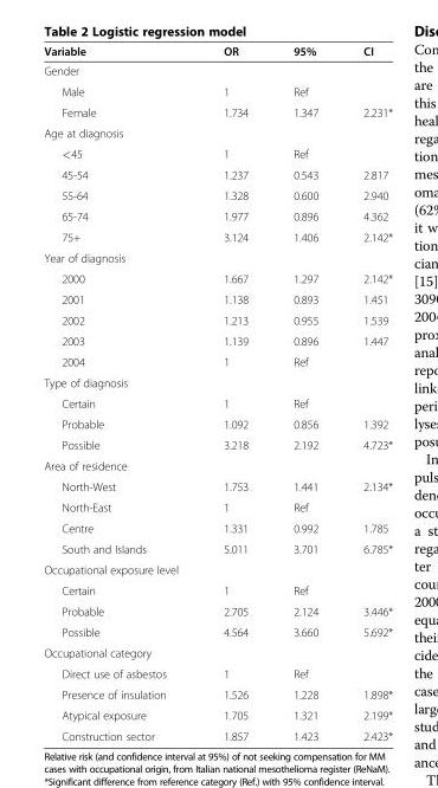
<table><thead><tr><td>Variable</td><td>OR</td><td>95%</td><td>CI</td></tr></thead><tbody><tr><td colspan="4">Gender</td></tr><tr><td>Male</td><td>1</td><td>Ref</td><td></td></tr><tr><td>Female</td><td>1.734</td><td>1.347</td><td>2.231*</td></tr><tr><td colspan="4">Age at diagnosis</td></tr><tr><td>&lt;45</td><td>1</td><td>Ref</td><td></td></tr><tr><td>45-54</td><td>1.237</td><td>0.543</td><td>2.817</td></tr><tr><td>55-64</td><td>1.328</td><td>0.600</td><td>2.940</td></tr><tr><td>65-74</td><td>1.977</td><td>0.896</td><td>4.362</td></tr><tr><td>75+</td><td>3.124</td><td>1.406</td><td>2.142*</td></tr><tr><td colspan="4">Year of diagnosis</td></tr><tr><td>2000</td><td>1.667</td><td>1.297</td><td>2.142*</td></tr><tr><td>2001</td><td>1.138</td><td>0.893</td><td>1.451</td></tr><tr><td>2002</td><td>1.213</td><td>0.955</td><td>1.539</td></tr><tr><td>2003</td><td>1.139</td><td>0.896</td><td>1.447</td></tr><tr><td>2004</td><td>1</td><td>Ref</td><td></td></tr><tr><td colspan="4">Type of diagnosis</td></tr><tr><td>Certain</td><td>1</td><td>Ref</td><td></td></tr><tr><td>Probable</td><td>1.092</td><td>0.856</td><td>1.392</td></tr><tr><td>Possible</td><td>3.218</td><td>2.192</td><td>4.723*</td></tr><tr><td colspan="4">Area of residence</td></tr><tr><td>North-West</td><td>1.753</td><td>1.441</td><td>2.134*</td></tr><tr><td>North-East</td><td>1</td><td>Ref</td><td></td></tr><tr><td>Centre</td><td>1.331</td><td>0.992</td><td>1.785</td></tr><tr><td>South and Islands</td><td>5.011</td><td>3.701</td><td>6.785*</td></tr><tr><td colspan="4">Occupational exposure level</td></tr><tr><td>Certain</td><td>1</td><td>Ref</td><td></td></tr><tr><td>Probable</td><td>2.705</td><td>2.124</td><td>3.446*</td></tr><tr><td>Possible</td><td>4.564</td><td>3.660</td><td>5.692*</td></tr><tr><td colspan="4">Occupational category</td></tr><tr><td>Direct use of asbestos</td><td>1</td><td>Ref</td><td></td></tr><tr><td>Presence of insulation</td><td>1.526</td><td>1.228</td><td>1.898*</td></tr><tr><td>Atypical exposure</td><td>1.705</td><td>1.321</td><td>2.199*</td></tr><tr><td>Construction sector</td><td>1.857</td><td>1.423</td><td>2.423*</td></tr></tbody></table>